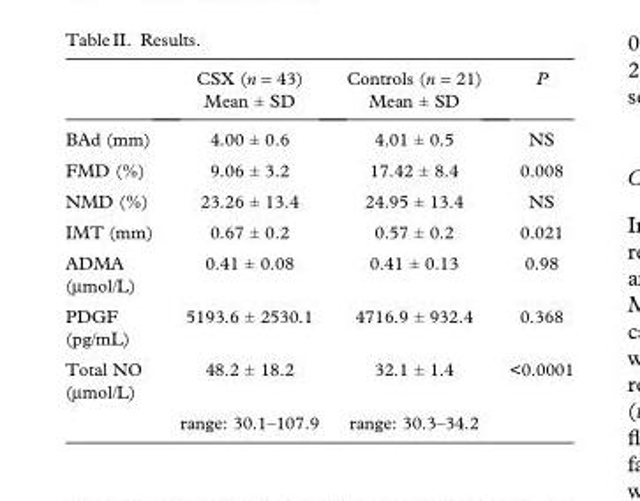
<table><thead><tr><td rowspan="2"></td><td rowspan="2">CSX (n = 43) Mean ± SD</td><td rowspan="2">Controls (n = 21) Mean ± SD</td><td rowspan="2">P</td></tr><tr></tr></thead><tbody><tr><td>BAd (mm)</td><td>4.00 ± 0.6</td><td>4.01 ± 0.5</td><td>NS</td></tr><tr><td>FMD (%)</td><td>9.06 ± 3.2</td><td>17.42 ± 8.4</td><td>0.008</td></tr><tr><td>NMD (%)</td><td>23.26 ± 13.4</td><td>24.95 ± 13.4</td><td>NS</td></tr><tr><td>IMT (mm)</td><td>0.67 ± 0.2</td><td>0.57 ± 0.2</td><td>0.021</td></tr><tr><td>ADMA (μmol/L)</td><td>0.41 ± 0.08</td><td>0.41 ± 0.13</td><td>0.98</td></tr><tr><td>PDGF (pg/mL)</td><td>5193.6 ± 2530.1</td><td>4716.9 ± 932.4</td><td>0.368</td></tr><tr><td rowspan="2">Total NO (μmol/L)</td><td>48.2 ± 18.2</td><td>32.1 ± 1.4</td><td>&lt;0.0001</td></tr><tr><td>range: 30.1–107.9</td><td>range: 30.3–34.2</td><td></td></tr></tbody></table>